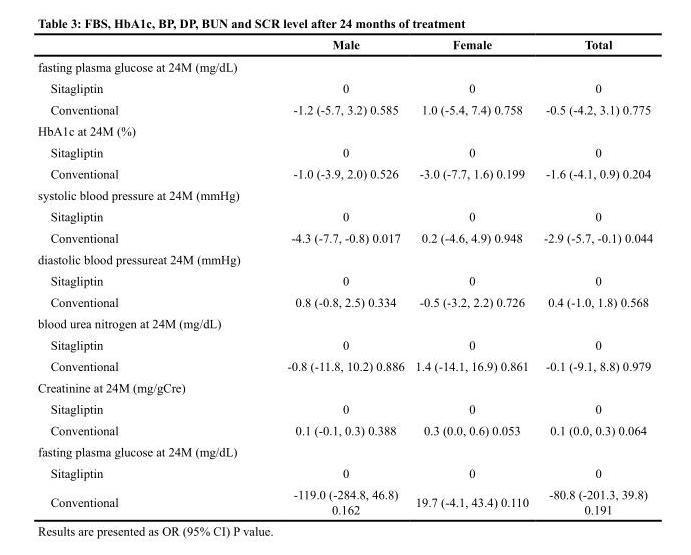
<table><thead><tr><td></td><td>Male</td><td>Female</td><td>Total</td></tr></thead><tbody><tr><td colspan="4">fasting plasma glucose at 24M (mg/dL)</td></tr><tr><td>Sitagliptin</td><td>0</td><td>0</td><td>0</td></tr><tr><td>Conventional</td><td>-1.2 (-5.7, 3.2) 0.585</td><td>1.0 (-5.4, 7.4) 0.758</td><td>-0.5 (-4.2, 3.1) 0.775</td></tr><tr><td colspan="4">HbA1c at 24M (%)</td></tr><tr><td>Sitagliptin</td><td>0</td><td>0</td><td>0</td></tr><tr><td>Conventional</td><td>-1.0 (-3.9, 2.0) 0.526</td><td>-3.0 (-7.7, 1.6) 0.199</td><td>-1.6 (-4.1, 0.9) 0.204</td></tr><tr><td colspan="4">systolic blood pressure at 24M (mmHg)</td></tr><tr><td>Sitagliptin</td><td>0</td><td>0</td><td>0</td></tr><tr><td>Conventional</td><td>-4.3 (-7.7, -0.8) 0.017</td><td>0.2 (-4.6, 4.9) 0.948</td><td>-2.9 (-5.7, -0.1) 0.044</td></tr><tr><td colspan="4">diastolic blood pressureat 24M (mmHg)</td></tr><tr><td>Sitagliptin</td><td>0</td><td>0</td><td>0</td></tr><tr><td>Conventional</td><td>0.8 (-0.8, 2.5) 0.334</td><td>-0.5 (-3.2, 2.2) 0.726</td><td>0.4 (-1.0, 1.8) 0.568</td></tr><tr><td colspan="4">blood urea nitrogen at 24M (mg/dL)</td></tr><tr><td>Sitagliptin</td><td>0</td><td>0</td><td>0</td></tr><tr><td>Conventional</td><td>-0.8 (-11.8, 10.2) 0.886</td><td>1.4 (-14.1, 16.9) 0.861</td><td>-0.1 (-9.1, 8.8) 0.979</td></tr><tr><td colspan="4">Creatinine at 24M (mg/gCre)</td></tr><tr><td>Sitagliptin</td><td>0</td><td>0</td><td>0</td></tr><tr><td>Conventional</td><td>0.1 (-0.1, 0.3) 0.388</td><td>0.3 (0.0, 0.6) 0.053</td><td>0.1 (0.0, 0.3) 0.064</td></tr><tr><td colspan="4">fasting plasma glucose at 24M (mg/dL)</td></tr><tr><td>Sitagliptin</td><td>0</td><td>0</td><td>0</td></tr><tr><td>Conventional</td><td>-119.0 (-284.8, 46.8) 0.162</td><td>19.7 (-4.1, 43.4) 0.110</td><td>-80.8 (-201.3, 39.8) 0.191</td></tr></tbody></table>